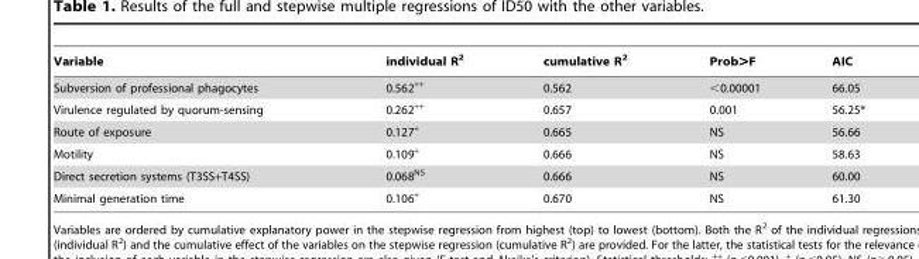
<table><thead><tr><td>Variable</td><td>individual R<sup>2</sup></td><td>cumulative R<sup>2</sup></td><td>Prob&gt;F</td><td>AIC</td></tr></thead><tbody><tr><td>Subversion of professional phagocytes</td><td>0.562<sup>++</sup></td><td>0.562</td><td>&lt;0.00001</td><td>66.05</td></tr><tr><td>Virulence regulated by quorum-sensing</td><td>0.262<sup>++</sup></td><td>0.657</td><td>0.001</td><td>56.25*</td></tr><tr><td>Route of exposure</td><td>0.127<sup>+</sup></td><td>0.665</td><td>NS</td><td>56.66</td></tr><tr><td>Motility</td><td>0.109<sup>+</sup></td><td>0.666</td><td>NS</td><td>58.63</td></tr><tr><td>Direct secretion systems (T3SS+T4SS)</td><td>0.068<sup>NS</sup></td><td>0.666</td><td>NS</td><td>60.00</td></tr><tr><td>Minimal generation time</td><td>0.106<sup>+</sup></td><td>0.670</td><td>NS</td><td>61.30</td></tr></tbody></table>